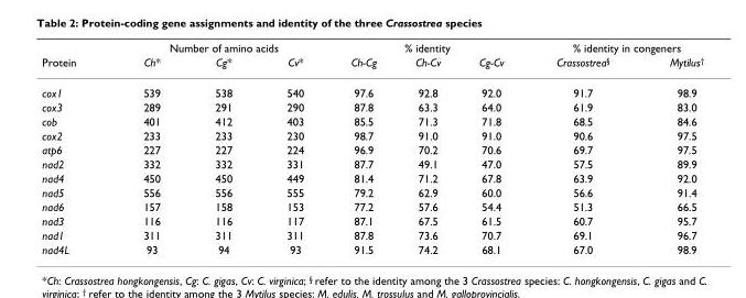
<table><thead><tr><td rowspan="2">Protein</td><td colspan="3">Number of amino acids</td><td colspan="3">% identity</td><td colspan="2">% identity in congeners</td></tr><tr><td>Ch*</td><td>Cg*</td><td>Cv*</td><td>Ch-Cg</td><td>Ch-Cv</td><td>Cg-Cv</td><td>Crassostrea<sup>§</sup></td><td>Mytilus<sup>†</sup></td></tr></thead><tbody><tr><td>cox1</td><td>539</td><td>538</td><td>540</td><td>97.6</td><td>92.8</td><td>92.0</td><td>91.7</td><td>98.9</td></tr><tr><td>cox3</td><td>289</td><td>291</td><td>290</td><td>87.8</td><td>63.3</td><td>64.0</td><td>61.9</td><td>83.0</td></tr><tr><td>cob</td><td>401</td><td>412</td><td>403</td><td>85.5</td><td>71.3</td><td>71.8</td><td>68.5</td><td>84.6</td></tr><tr><td>cox2</td><td>233</td><td>233</td><td>230</td><td>98.7</td><td>91.0</td><td>91.0</td><td>90.6</td><td>97.5</td></tr><tr><td>atp6</td><td>227</td><td>227</td><td>224</td><td>96.9</td><td>70.2</td><td>70.6</td><td>69.7</td><td>97.5</td></tr><tr><td>nad2</td><td>332</td><td>332</td><td>331</td><td>87.7</td><td>49.1</td><td>47.0</td><td>57.5</td><td>89.9</td></tr><tr><td>nad4</td><td>450</td><td>450</td><td>449</td><td>81.4</td><td>71.2</td><td>67.8</td><td>63.9</td><td>92.0</td></tr><tr><td>nad5</td><td>556</td><td>556</td><td>555</td><td>79.2</td><td>62.9</td><td>60.0</td><td>56.6</td><td>91.4</td></tr><tr><td>nad6</td><td>157</td><td>158</td><td>153</td><td>77.2</td><td>57.6</td><td>54.4</td><td>51.3</td><td>66.5</td></tr><tr><td>nad3</td><td>116</td><td>116</td><td>117</td><td>87.1</td><td>67.5</td><td>61.5</td><td>60.7</td><td>95.7</td></tr><tr><td>nad1</td><td>311</td><td>311</td><td>311</td><td>87.8</td><td>73.6</td><td>70.7</td><td>69.1</td><td>96.7</td></tr><tr><td>nad4L</td><td>93</td><td>94</td><td>93</td><td>91.5</td><td>74.2</td><td>68.1</td><td>67.0</td><td>98.9</td></tr></tbody></table>